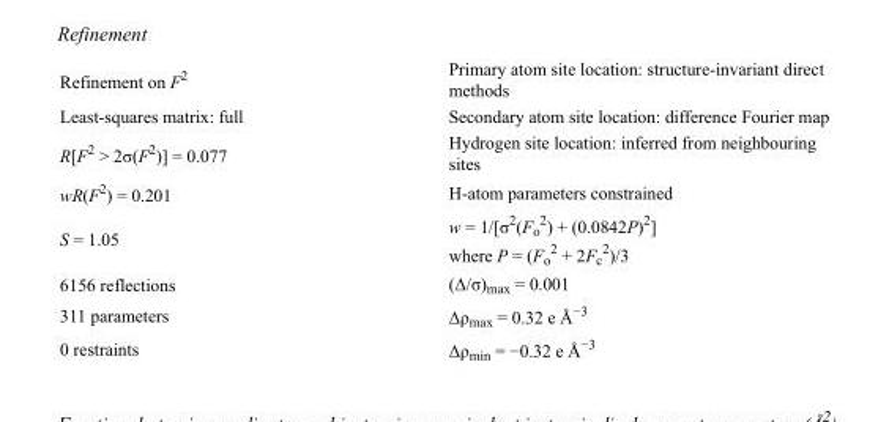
<table><tbody><tr><td>Refinement on F<sup>2</sup></td><td>Primary atom site location: structure-invariant direct methods</td></tr><tr><td>Least-squares matrix: full</td><td>Secondary atom site location: difference Fourier map</td></tr><tr><td>R[F<sup>2</sup> &gt; 2σ(F<sup>2</sup>)] = 0.077</td><td>Hydrogen site location: inferred from neighbouring sites</td></tr><tr><td>wR(F<sup>2</sup>) = 0.201</td><td>H-atom parameters constrained</td></tr><tr><td>S = 1.05</td><td>w = 1/[σ<sup>2</sup>(F<sub>o</sub> <sup>2</sup>) + (0.0842P)<sup>2</sup>] where P = (F<sub>o</sub> <sup>2</sup> + 2F<sub>c</sub> <sup>2</sup>)/3</td></tr><tr><td>6156 reflections</td><td>(Δ/σ)<sub>max</sub> = 0.001</td></tr><tr><td>311 parameters</td><td>Δρ<sub>max</sub> = 0.32 e Å<sup>−3</sup></td></tr><tr><td>0 restraints</td><td>Δρ<sub>min</sub> = −0.32 e Å<sup>−3</sup></td></tr></tbody></table>